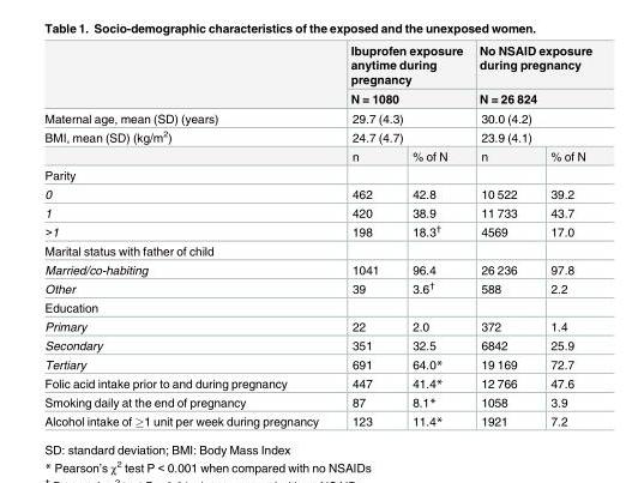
<table><thead><tr><td rowspan="5">Maternal age, mean (SD) (years) BMI, mean (SD) (kg/m<sup>2</sup>)</td><td rowspan="4" colspan="2">Ibuprofen exposure anytime during pregnancy N = 1080 29.7 (4.3) 24.7 (4.7)</td><td rowspan="4" colspan="2">No NSAID exposure during pregnancy N = 26 824 30.0 (4.2) 23.9 (4.1)</td></tr><tr></tr><tr></tr><tr></tr><tr><td>n</td><td>% of N</td><td>n</td><td>% of N</td></tr></thead><tbody><tr><td colspan="5">Parity</td></tr><tr><td>0</td><td>462</td><td>42.8</td><td>10 522</td><td>39.2</td></tr><tr><td>1</td><td>420</td><td>38.9</td><td>11 733</td><td>43.7</td></tr><tr><td>&gt;1</td><td>198</td><td>18.3<sup>†</sup></td><td>4569</td><td>17.0</td></tr><tr><td colspan="5">Marital status with father of child</td></tr><tr><td>Married/co-habiting</td><td>1041</td><td>96.4</td><td>26 236</td><td>97.8</td></tr><tr><td>Other</td><td>39</td><td>3.6<sup>†</sup></td><td>588</td><td>2.2</td></tr><tr><td colspan="5">Education</td></tr><tr><td>Primary</td><td>22</td><td>2.0</td><td>372</td><td>1.4</td></tr><tr><td>Secondary</td><td>351</td><td>32.5</td><td>6842</td><td>25.9</td></tr><tr><td>Tertiary</td><td>691</td><td>64.0*</td><td>19 169</td><td>72.7</td></tr><tr><td>Folic acid intake prior to and during pregnancy</td><td>447</td><td>41.4*</td><td>12 766</td><td>47.6</td></tr><tr><td>Smoking daily at the end of pregnancy</td><td>87</td><td>8.1*</td><td>1058</td><td>3.9</td></tr><tr><td>Alcohol intake of ≥1 unit per week during pregnancy</td><td>123</td><td>11.4*</td><td>1921</td><td>7.2</td></tr></tbody></table>